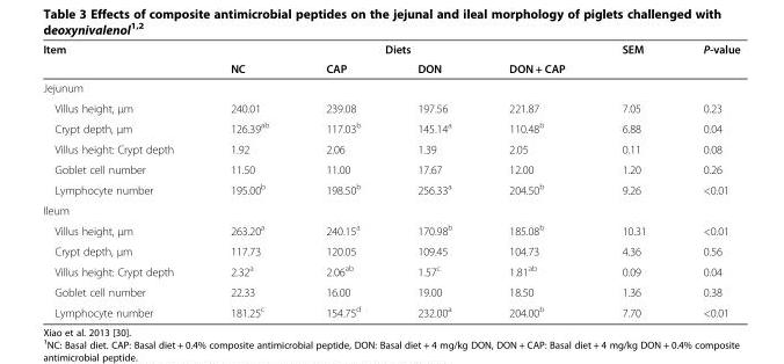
<table><thead><tr><td rowspan="2">Item</td><td colspan="4">Diets</td><td rowspan="2">SEM</td><td rowspan="2">P-value</td></tr><tr><td>NC</td><td>CAP</td><td>DON</td><td>DON + CAP</td></tr></thead><tbody><tr><td colspan="7">Jejunum</td></tr><tr><td>Villus height, μm</td><td>240.01</td><td>239.08</td><td>197.56</td><td>221.87</td><td>7.05</td><td>0.23</td></tr><tr><td>Crypt depth, μm</td><td>126.39<sup>ab</sup></td><td>117.03<sup>b</sup></td><td>145.14<sup>a</sup></td><td>110.48<sup>b</sup></td><td>6.88</td><td>0.04</td></tr><tr><td>Villus height: Crypt depth</td><td>1.92</td><td>2.06</td><td>1.39</td><td>2.05</td><td>0.11</td><td>0.08</td></tr><tr><td>Goblet cell number</td><td>11.50</td><td>11.00</td><td>17.67</td><td>12.00</td><td>1.20</td><td>0.26</td></tr><tr><td>Lymphocyte number</td><td>195.00<sup>b</sup></td><td>198.50<sup>b</sup></td><td>256.33<sup>a</sup></td><td>204.50<sup>b</sup></td><td>9.26</td><td>&lt;0.01</td></tr><tr><td colspan="7">Ileum</td></tr><tr><td>Villus height, μm</td><td>263.20<sup>a</sup></td><td>240.15<sup>a</sup></td><td>170.98<sup>b</sup></td><td>185.08<sup>b</sup></td><td>10.31</td><td>&lt;0.01</td></tr><tr><td>Crypt depth, μm</td><td>117.73</td><td>120.05</td><td>109.45</td><td>104.73</td><td>4.36</td><td>0.56</td></tr><tr><td>Villus height: Crypt depth</td><td>2.32<sup>a</sup></td><td>2.06<sup>ab</sup></td><td>1.57<sup>c</sup></td><td>1.81<sup>ab</sup></td><td>0.09</td><td>0.04</td></tr><tr><td>Goblet cell number</td><td>22.33</td><td>16.00</td><td>19.00</td><td>18.50</td><td>1.36</td><td>0.38</td></tr><tr><td>Lymphocyte number</td><td>181.25<sup>c</sup></td><td>154.75<sup>d</sup></td><td>232.00<sup>a</sup></td><td>204.00<sup>b</sup></td><td>7.70</td><td>&lt;0.01</td></tr></tbody></table>